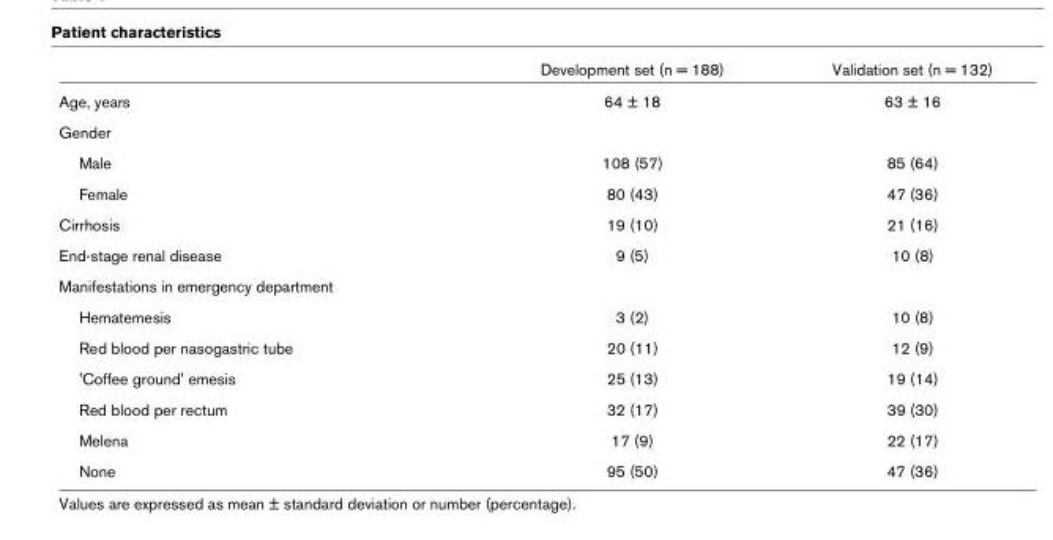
<table><thead><tr><td></td><td>Development set (n = 188)</td><td>Validation set (n = 132)</td></tr></thead><tbody><tr><td>Age, years</td><td>64 ± 18</td><td>63 ± 16</td></tr><tr><td colspan="3">Gender</td></tr><tr><td>Male</td><td>108 (57)</td><td>85 (64)</td></tr><tr><td>Female</td><td>80 (43)</td><td>47 (36)</td></tr><tr><td>Cirrhosis</td><td>19 (10)</td><td>21 (16)</td></tr><tr><td>End-stage renal disease</td><td>9 (5)</td><td>10 (8)</td></tr><tr><td colspan="3">Manifestations in emergency department</td></tr><tr><td>Hematemesis</td><td>3 (2)</td><td>10 (8)</td></tr><tr><td>Red blood per nasogastric tube</td><td>20 (11)</td><td>12 (9)</td></tr><tr><td>&#x27;Coffee ground&#x27; emesis</td><td>25 (13)</td><td>19 (14)</td></tr><tr><td>Red blood per rectum</td><td>32 (17)</td><td>39 (30)</td></tr><tr><td>Melena</td><td>17 (9)</td><td>22 (17)</td></tr><tr><td>None</td><td>95 (50)</td><td>47 (36)</td></tr></tbody></table>